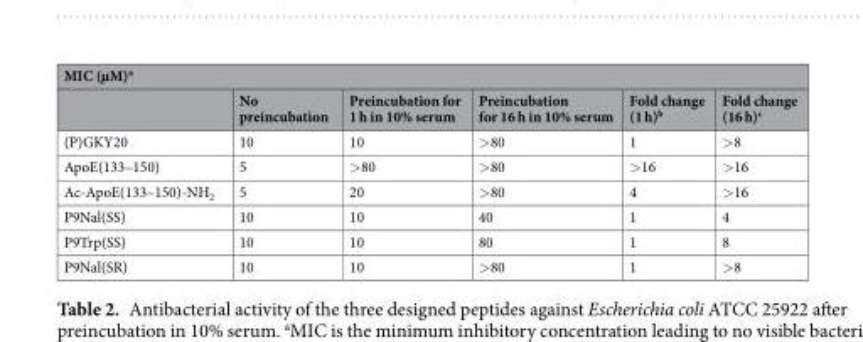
<table><thead><tr><td colspan="6">MIC (µM)<sup>a</sup></td></tr><tr><td></td><td>No preincubation</td><td>Preincubation for 1 h in 10% serum</td><td>Preincubation for 16 h in 10% serum</td><td>Fold change (1 h)<sup>b</sup></td><td>Fold change (16 h)<sup>c</sup></td></tr></thead><tbody><tr><td>(P)GKY20</td><td>10</td><td>10</td><td>&gt;80</td><td>1</td><td>&gt;8</td></tr><tr><td>ApoE(133–150)</td><td>5</td><td>&gt;80</td><td>&gt;80</td><td>&gt;16</td><td>&gt;16</td></tr><tr><td>Ac-ApoE(133–150)-NH<sub>2</sub></td><td>5</td><td>20</td><td>&gt;80</td><td>4</td><td>&gt;16</td></tr><tr><td>P9Nal(SS)</td><td>10</td><td>10</td><td>40</td><td>1</td><td>4</td></tr><tr><td>P9Trp(SS)</td><td>10</td><td>10</td><td>80</td><td>1</td><td>8</td></tr><tr><td>P9Nal(SR)</td><td>10</td><td>10</td><td>&gt;80</td><td>1</td><td>&gt;8</td></tr></tbody></table>